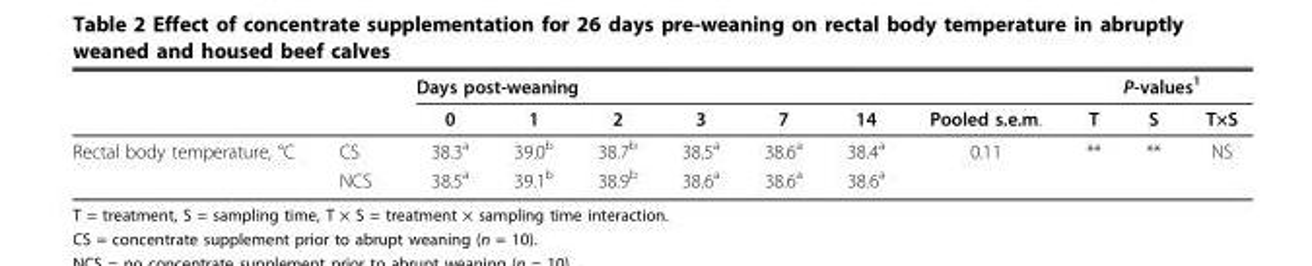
<table><thead><tr><td rowspan="2"></td><td rowspan="2"></td><td colspan="6">Days post-weaning</td><td rowspan="2">Pooled s.e.m.</td><td colspan="3">P-values1</td></tr><tr><td>0</td><td>1</td><td>2</td><td>3</td><td>7</td><td>14</td><td>T</td><td>S</td><td>T×S</td></tr></thead><tbody><tr><td rowspan="2">Rectal body temperature, °C</td><td>CS</td><td>38.3<sup>a</sup></td><td>39.0<sup>b</sup></td><td>38.7<sup>b</sup></td><td>38.5<sup>a</sup></td><td>38.6<sup>a</sup></td><td>38.4<sup>a</sup></td><td>0.11</td><td>**</td><td>**</td><td>NS</td></tr><tr><td>NCS</td><td>38.5<sup>a</sup></td><td>39.1<sup>b</sup></td><td>38.9<sup>b</sup></td><td>38.6<sup>a</sup></td><td>38.6<sup>a</sup></td><td>38.6<sup>a</sup></td><td></td><td></td><td></td><td></td></tr></tbody></table>